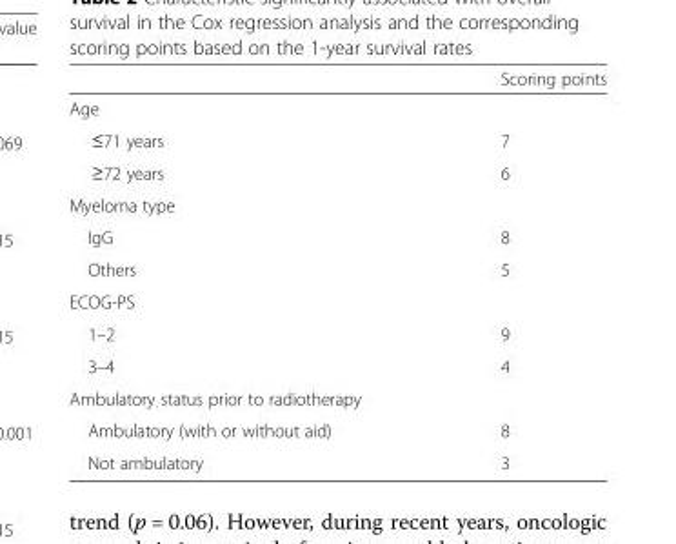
<table><thead><tr><td></td><td>Scoring points</td></tr></thead><tbody><tr><td colspan="2">Age</td></tr><tr><td>≤71 years</td><td>7</td></tr><tr><td>≥72 years</td><td>6</td></tr><tr><td colspan="2">Myeloma type</td></tr><tr><td>IgG</td><td>8</td></tr><tr><td>Others</td><td>5</td></tr><tr><td colspan="2">ECOG-PS</td></tr><tr><td>1–2</td><td>9</td></tr><tr><td>3–4</td><td>4</td></tr><tr><td colspan="2">Ambulatory status prior to radiotherapy</td></tr><tr><td>Ambulatory (with or without aid)</td><td>8</td></tr><tr><td>Not ambulatory</td><td>3</td></tr></tbody></table>